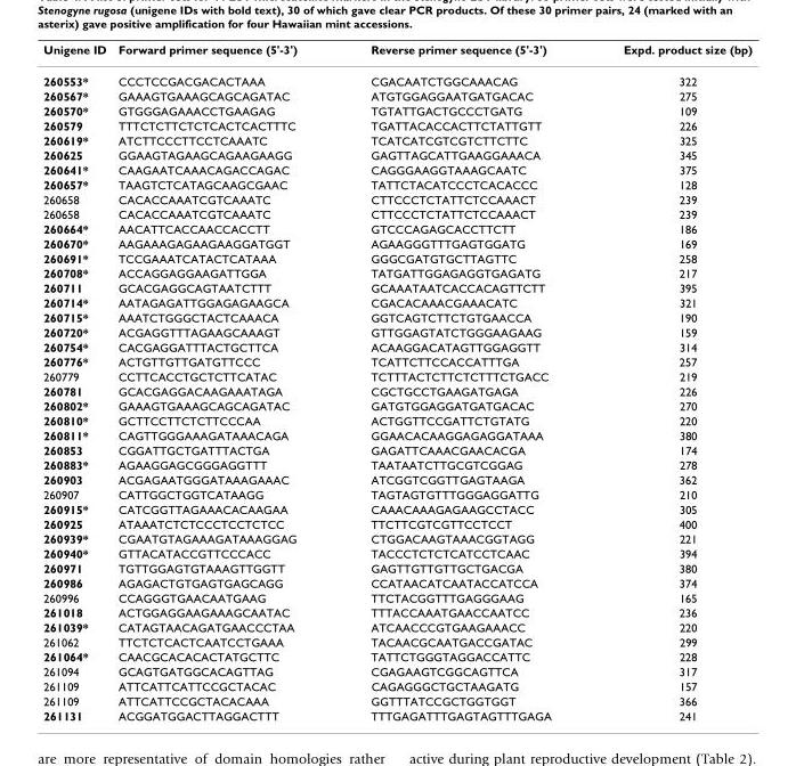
<table><thead><tr><td>Unigene ID</td><td>Forward primer sequence (5&#x27;-3&#x27;)</td><td>Reverse primer sequence (5&#x27;-3&#x27;)</td><td>Expd. product size (bp)</td></tr></thead><tbody><tr><td>260553*</td><td>CCCTCCGACGACACTAAA</td><td>CGACAATCTGGCAAACAG</td><td>322</td></tr><tr><td>260567*</td><td>GAAAGTGAAAGCAGCAGATAC</td><td>ATGTGGAGGAATGATGACAC</td><td>275</td></tr><tr><td>260570*</td><td>GTGGGAGAAACCTGAAGAG</td><td>TGTATTGACTGCCCTGATG</td><td>109</td></tr><tr><td>260579</td><td>TTTCTCTTCTCTCACTCACTTTC</td><td>TGATTACACCACTTCTATTGTT</td><td>226</td></tr><tr><td>260619*</td><td>ATCTTCCCTTCCTCAAATC</td><td>TCATCATCGTCGTCTTCTTC</td><td>325</td></tr><tr><td>260625</td><td>GGAAGTAGAAGCAGAAGAAGG</td><td>GAGTTAGCATTGAAGGAAACA</td><td>345</td></tr><tr><td>260641*</td><td>CAAGAATCAAACAGACCAGAC</td><td>CAGGGAAGGTAAAGCAATC</td><td>375</td></tr><tr><td>260657*</td><td>TAAGTCTCATAGCAAGCGAAC</td><td>TATTCTACATCCCTCACACCC</td><td>128</td></tr><tr><td>260658</td><td>CACACCAAATCGTCAAATC</td><td>CTTCCCTCTATTCTCCAAACT</td><td>239</td></tr><tr><td>260658</td><td>CACACCAAATCGTCAAATC</td><td>CTTCCCTCTATTCTCCAAACT</td><td>239</td></tr><tr><td>260664*</td><td>AACATTCACCAACCACCTT</td><td>GTCCCAGAGCACCTTCTT</td><td>186</td></tr><tr><td>260670*</td><td>AAGAAAGAGAAGAAGGATGGT</td><td>AGAAGGGTTTGAGTGGATG</td><td>169</td></tr><tr><td>260691*</td><td>TCCGAAATCATACTCATAAA</td><td>GGGCGATGTGCTTAGTTC</td><td>258</td></tr><tr><td>260708*</td><td>ACCAGGAGGAAGATTGGA</td><td>TATGATTGGAGAGGTGAGATG</td><td>217</td></tr><tr><td>260711</td><td>GCACGAGGCAGTAATCTTT</td><td>GCAAATAATCACCACAGTTCTT</td><td>395</td></tr><tr><td>260714*</td><td>AATAGAGATTGGAGAGAAGCA</td><td>CGACACAAACGAAACATC</td><td>321</td></tr><tr><td>260715*</td><td>AAATCTGGGCTACTCAAACA</td><td>GGTCAGTCTTCTGTGAACCA</td><td>190</td></tr><tr><td>260720*</td><td>ACGAGGTTTAGAAGCAAAGT</td><td>GTTGGAGTATCTGGGAAGAAG</td><td>159</td></tr><tr><td>260754*</td><td>CACGAGGATTTACTGCTTCA</td><td>ACAAGGACATAGTTGGAGGTT</td><td>314</td></tr><tr><td>260776*</td><td>ACTGTTGTTGATGTTCCC</td><td>TCATTCTTCCACCATTTGA</td><td>257</td></tr><tr><td>260779</td><td>CCTTCACCTGCTCTTCATAC</td><td>TCTTTACTCTTCTCTTTCTGACC</td><td>219</td></tr><tr><td>260781</td><td>GCACGAGGACAAGAAATAGA</td><td>CGCTGCCTGAAGATGAGA</td><td>226</td></tr><tr><td>260802*</td><td>GAAAGTGAAAGCAGCAGATAC</td><td>GATGTGGAGGATGATGACAC</td><td>270</td></tr><tr><td>260810*</td><td>GCTTCCTTCTCTTCCCAA</td><td>ACTGGTTCCGATTCTGTATG</td><td>220</td></tr><tr><td>260811*</td><td>CAGTTGGGAAAGATAAACAGA</td><td>GGAACACAAGGAGAGGATAAA</td><td>380</td></tr><tr><td>260853</td><td>CGGATTGCTGATTTACTGA</td><td>GAGATTCAAACGAACACGA</td><td>174</td></tr><tr><td>260883*</td><td>AGAAGGAGCGGGAGGTTT</td><td>TAATAATCTTGCGTCGGAG</td><td>278</td></tr><tr><td>260903</td><td>ACGAGAATGGGATAAAGAAAC</td><td>ATCGGTCGGTTGAGTAAGA</td><td>362</td></tr><tr><td>260907</td><td>CATTGGCTGGTCATAAGG</td><td>TAGTAGTGTTTGGGAGGATTG</td><td>210</td></tr><tr><td>260915*</td><td>CATCGGTTAGAAACACAAGAA</td><td>CAAACAAAGAGAAGCCTACC</td><td>305</td></tr><tr><td>260925</td><td>ATAAATCTCTCCCTCCTCTCC</td><td>TTCTTCGTCGTTCCTCCT</td><td>400</td></tr><tr><td>260939*</td><td>CGAATGTAGAAAGATAAAGGAG</td><td>CTGGACAAGTAAACGGTAGG</td><td>221</td></tr><tr><td>260940*</td><td>GTTACATACCGTTCCCACC</td><td>TACCCTCTCTCATCCTCAAC</td><td>394</td></tr><tr><td>260971</td><td>TGTTGGAGTGTAAAGTTGGTT</td><td>GAGTTGTTGTTGCTGACGA</td><td>380</td></tr><tr><td>260986</td><td>AGAGACTGTGAGTGAGCAGG</td><td>CCATAACATCAATACCATCCA</td><td>374</td></tr><tr><td>260996</td><td>CCAGGGTGAACAATGAAG</td><td>TTCTACGGTTTGAGGGAAG</td><td>165</td></tr><tr><td>261018</td><td>ACTGGAGGAAGAAAGCAATAC</td><td>TTTACCAAATGAACCAATCC</td><td>236</td></tr><tr><td>261039*</td><td>CATAGTAACAGATGAACCCTAA</td><td>ATCAACCCGTGAAGAAACC</td><td>220</td></tr><tr><td>261062</td><td>TTCTCTCACTCAATCCTGAAA</td><td>TACAACGCAATGACCGATAC</td><td>299</td></tr><tr><td>261064*</td><td>CAACGCACACACTATGCTTC</td><td>TATTCTGGGTAGGACCATTC</td><td>228</td></tr><tr><td>261094</td><td>GCAGTGATGGCACAGTTAG</td><td>CGAGAAGTCGGCAGTTCA</td><td>317</td></tr><tr><td>261109</td><td>ATTCATTCATTCCGCTACAC</td><td>CAGAGGGCTGCTAAGATG</td><td>157</td></tr><tr><td>261109</td><td>ATTCATTCCGCTACACAAA</td><td>GGTTTATCCGCTGGTGGT</td><td>366</td></tr><tr><td>261131</td><td>ACGGATGGACTTAGGACTTT</td><td>TTTGAGATTTGAGTAGTTTGAGA</td><td>241</td></tr></tbody></table>